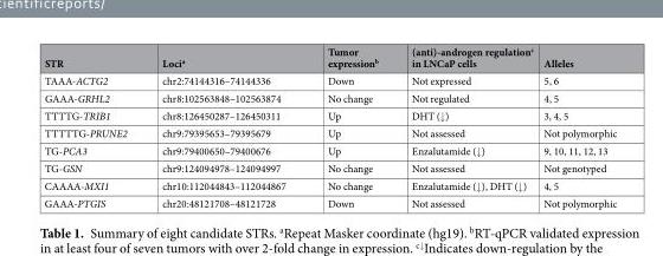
<table><thead><tr><td>STR</td><td>Loci<sup>a</sup></td><td>Tumor expression<sup>b</sup></td><td>(anti)-androgen regulation<sup>c</sup> in LNCaP cells</td><td>Alleles</td></tr></thead><tbody><tr><td>TAAA-ACTG2</td><td>chr2:74144316–74144336</td><td>Down</td><td>Not expressed</td><td>5, 6</td></tr><tr><td>GAAA-GRHL2</td><td>chr8:102563848–102563874</td><td>No change</td><td>Not regulated</td><td>4, 5</td></tr><tr><td>TTTTG-TRIB1</td><td>chr8:126450287–126450311</td><td>Up</td><td>DHT (↓)</td><td>3, 4, 5</td></tr><tr><td>TTTTTG-PRUNE2</td><td>chr9:79395653–79395679</td><td>Up</td><td>Not assessed</td><td>Not polymorphic</td></tr><tr><td>TG-PCA3</td><td>chr9:79400650–79400676</td><td>Up</td><td>Enzalutamide (↓)</td><td>9, 10, 11, 12, 13</td></tr><tr><td>TG-GSN</td><td>chr9:124094978–124094997</td><td>No change</td><td>Not assessed</td><td>Not genotyped</td></tr><tr><td>CAAAA-MXI1</td><td>chr10:112044843–112044867</td><td>No change</td><td>Enzalutamide (↓), DHT (↓)</td><td>4, 5</td></tr><tr><td>GAAA-PTGIS</td><td>chr20:48121708–48121728</td><td>Down</td><td>Not assessed</td><td>Not polymorphic</td></tr></tbody></table>